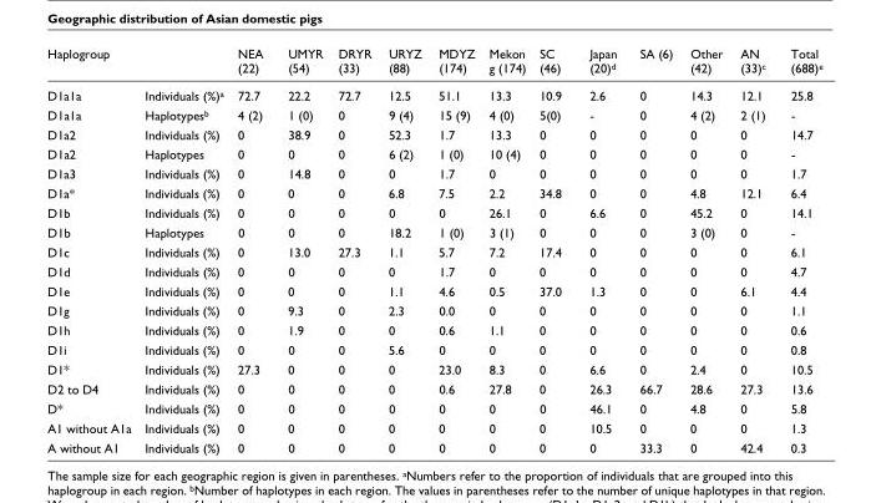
<table><thead><tr><td>Haplogroup</td><td></td><td>NEA (22)</td><td>UMYR (54)</td><td>DRYR (33)</td><td>URYZ (88)</td><td>MDYZ (174)</td><td>Mekon g (174)</td><td>SC (46)</td><td>Japan (20)<sup>d</sup></td><td>SA (6)</td><td>Other (42)</td><td>AN (33)<sup>c</sup></td><td>Total (688)<sup>e</sup></td></tr></thead><tbody><tr><td>D1a1a</td><td>Individuals (%)<sup>a</sup></td><td>72.7</td><td>22.2</td><td>72.7</td><td>12.5</td><td>51.1</td><td>13.3</td><td>10.9</td><td>2.6</td><td>0</td><td>14.3</td><td>12.1</td><td>25.8</td></tr><tr><td>D1a1a</td><td>Haplotypes<sup>b</sup></td><td>4 (2)</td><td>1 (0)</td><td>0</td><td>9 (4)</td><td>15 (9)</td><td>4 (0)</td><td>5(0)</td><td>-</td><td>0</td><td>4 (2)</td><td>2 (1)</td><td>-</td></tr><tr><td>D1a2</td><td>Individuals (%)</td><td>0</td><td>38.9</td><td>0</td><td>52.3</td><td>1.7</td><td>13.3</td><td>0</td><td>0</td><td>0</td><td>0</td><td>0</td><td>14.7</td></tr><tr><td>D1a2</td><td>Haplotypes</td><td>0</td><td>0</td><td>0</td><td>6 (2)</td><td>1 (0)</td><td>10 (4)</td><td>0</td><td>0</td><td>0</td><td>0</td><td>0</td><td>-</td></tr><tr><td>D1a3</td><td>Individuals (%)</td><td>0</td><td>14.8</td><td>0</td><td>0</td><td>1.7</td><td>0</td><td>0</td><td>0</td><td>0</td><td>0</td><td>0</td><td>1.7</td></tr><tr><td>D1a*</td><td>Individuals (%)</td><td>0</td><td>0</td><td>0</td><td>6.8</td><td>7.5</td><td>2.2</td><td>34.8</td><td>0</td><td>0</td><td>4.8</td><td>12.1</td><td>6.4</td></tr><tr><td>D1b</td><td>Individuals (%)</td><td>0</td><td>0</td><td>0</td><td>0</td><td>0</td><td>26.1</td><td>0</td><td>6.6</td><td>0</td><td>45.2</td><td>0</td><td>14.1</td></tr><tr><td>D1b</td><td>Haplotypes</td><td>0</td><td>0</td><td>0</td><td>18.2</td><td>1 (0)</td><td>3 (1)</td><td>0</td><td>0</td><td>0</td><td>3 (0)</td><td>0</td><td>-</td></tr><tr><td>D1c</td><td>Individuals (%)</td><td>0</td><td>13.0</td><td>27.3</td><td>1.1</td><td>5.7</td><td>7.2</td><td>17.4</td><td>0</td><td>0</td><td>0</td><td>0</td><td>6.1</td></tr><tr><td>D1d</td><td>Individuals (%)</td><td>0</td><td>0</td><td>0</td><td>0</td><td>1.7</td><td>0</td><td>0</td><td>0</td><td>0</td><td>0</td><td>0</td><td>4.7</td></tr><tr><td>D1e</td><td>Individuals (%)</td><td>0</td><td>0</td><td>0</td><td>1.1</td><td>4.6</td><td>0.5</td><td>37.0</td><td>1.3</td><td>0</td><td>0</td><td>6.1</td><td>4.4</td></tr><tr><td>D1g</td><td>Individuals (%)</td><td>0</td><td>9.3</td><td>0</td><td>2.3</td><td>0.0</td><td>0</td><td>0</td><td>0</td><td>0</td><td>0</td><td>0</td><td>1.1</td></tr><tr><td>D1h</td><td>Individuals (%)</td><td>0</td><td>1.9</td><td>0</td><td>0</td><td>0.6</td><td>1.1</td><td>0</td><td>0</td><td>0</td><td>0</td><td>0</td><td>0.6</td></tr><tr><td>D1i</td><td>Individuals (%)</td><td>0</td><td>0</td><td>0</td><td>5.6</td><td>0</td><td>0</td><td>0</td><td>0</td><td>0</td><td>0</td><td>0</td><td>0.8</td></tr><tr><td>D1*</td><td>Individuals (%)</td><td>27.3</td><td>0</td><td>0</td><td>0</td><td>23.0</td><td>8.3</td><td>0</td><td>6.6</td><td>0</td><td>2.4</td><td>0</td><td>10.5</td></tr><tr><td>D2 to D4</td><td>Individuals (%)</td><td>0</td><td>0</td><td>0</td><td>0</td><td>0.6</td><td>27.8</td><td>0</td><td>26.3</td><td>66.7</td><td>28.6</td><td>27.3</td><td>13.6</td></tr><tr><td>D*</td><td>Individuals (%)</td><td>0</td><td>0</td><td>0</td><td>0</td><td>0</td><td>0</td><td>0</td><td>46.1</td><td>0</td><td>4.8</td><td>0</td><td>5.8</td></tr><tr><td>A1 without A1a</td><td>Individuals (%)</td><td>0</td><td>0</td><td>0</td><td>0</td><td>0</td><td>0</td><td>0</td><td>10.5</td><td>0</td><td>0</td><td>0</td><td>1.3</td></tr><tr><td>A without A1</td><td>Individuals (%)</td><td>0</td><td>0</td><td>0</td><td>0</td><td>0</td><td>0</td><td>0</td><td>0</td><td>33.3</td><td>0</td><td>42.4</td><td>0.3</td></tr></tbody></table>